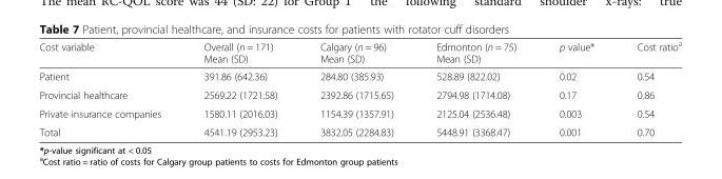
<table><thead><tr><td>Cost variable</td><td>Overall (n = 171) Mean (SD)</td><td>Calgary (n = 96) Mean (SD)</td><td>Edmonton (n = 75) Mean (SD)</td><td>p value*</td><td>Cost ratio<sup>a</sup></td></tr></thead><tbody><tr><td>Patient</td><td>391.86 (642.36)</td><td>284.80 (385.93)</td><td>528.89 (822.02)</td><td>0.02</td><td>0.54</td></tr><tr><td>Provincial healthcare</td><td>2569.22 (1721.58)</td><td>2392.86 (1715.65)</td><td>2794.98 (1714.08)</td><td>0.17</td><td>0.86</td></tr><tr><td>Private insurance companies</td><td>1580.11 (2016.03)</td><td>1154.39 (1357.91)</td><td>2125.04 (2536.48)</td><td>0.003</td><td>0.54</td></tr><tr><td>Total</td><td>4541.19 (2953.23)</td><td>3832.05 (2284.83)</td><td>5448.91 (3368.47)</td><td>0.001</td><td>0.70</td></tr></tbody></table>